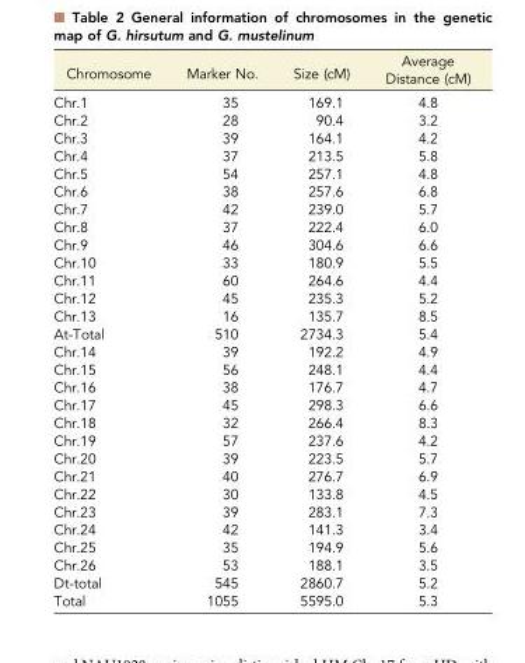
<table><thead><tr><td>Chromosome</td><td>Marker No.</td><td>Size (cM)</td><td>Average Distance (cM)</td></tr></thead><tbody><tr><td>Chr.1</td><td>35</td><td>169.1</td><td>4.8</td></tr><tr><td>Chr.2</td><td>28</td><td>90.4</td><td>3.2</td></tr><tr><td>Chr.3</td><td>39</td><td>164.1</td><td>4.2</td></tr><tr><td>Chr.4</td><td>37</td><td>213.5</td><td>5.8</td></tr><tr><td>Chr.5</td><td>54</td><td>257.1</td><td>4.8</td></tr><tr><td>Chr.6</td><td>38</td><td>257.6</td><td>6.8</td></tr><tr><td>Chr.7</td><td>42</td><td>239.0</td><td>5.7</td></tr><tr><td>Chr.8</td><td>37</td><td>222.4</td><td>6.0</td></tr><tr><td>Chr.9</td><td>46</td><td>304.6</td><td>6.6</td></tr><tr><td>Chr.10</td><td>33</td><td>180.9</td><td>5.5</td></tr><tr><td>Chr.11</td><td>60</td><td>264.6</td><td>4.4</td></tr><tr><td>Chr.12</td><td>45</td><td>235.3</td><td>5.2</td></tr><tr><td>Chr.13</td><td>16</td><td>135.7</td><td>8.5</td></tr><tr><td>At-Total</td><td>510</td><td>2734.3</td><td>5.4</td></tr><tr><td>Chr.14</td><td>39</td><td>192.2</td><td>4.9</td></tr><tr><td>Chr.15</td><td>56</td><td>248.1</td><td>4.4</td></tr><tr><td>Chr.16</td><td>38</td><td>176.7</td><td>4.7</td></tr><tr><td>Chr.17</td><td>45</td><td>298.3</td><td>6.6</td></tr><tr><td>Chr.18</td><td>32</td><td>266.4</td><td>8.3</td></tr><tr><td>Chr.19</td><td>57</td><td>237.6</td><td>4.2</td></tr><tr><td>Chr.20</td><td>39</td><td>223.5</td><td>5.7</td></tr><tr><td>Chr.21</td><td>40</td><td>276.7</td><td>6.9</td></tr><tr><td>Chr.22</td><td>30</td><td>133.8</td><td>4.5</td></tr><tr><td>Chr.23</td><td>39</td><td>283.1</td><td>7.3</td></tr><tr><td>Chr.24</td><td>42</td><td>141.3</td><td>3.4</td></tr><tr><td>Chr.25</td><td>35</td><td>194.9</td><td>5.6</td></tr><tr><td>Chr.26</td><td>53</td><td>188.1</td><td>3.5</td></tr><tr><td>Dt-total</td><td>545</td><td>2860.7</td><td>5.2</td></tr><tr><td>Total</td><td>1055</td><td>5595.0</td><td>5.3</td></tr></tbody></table>